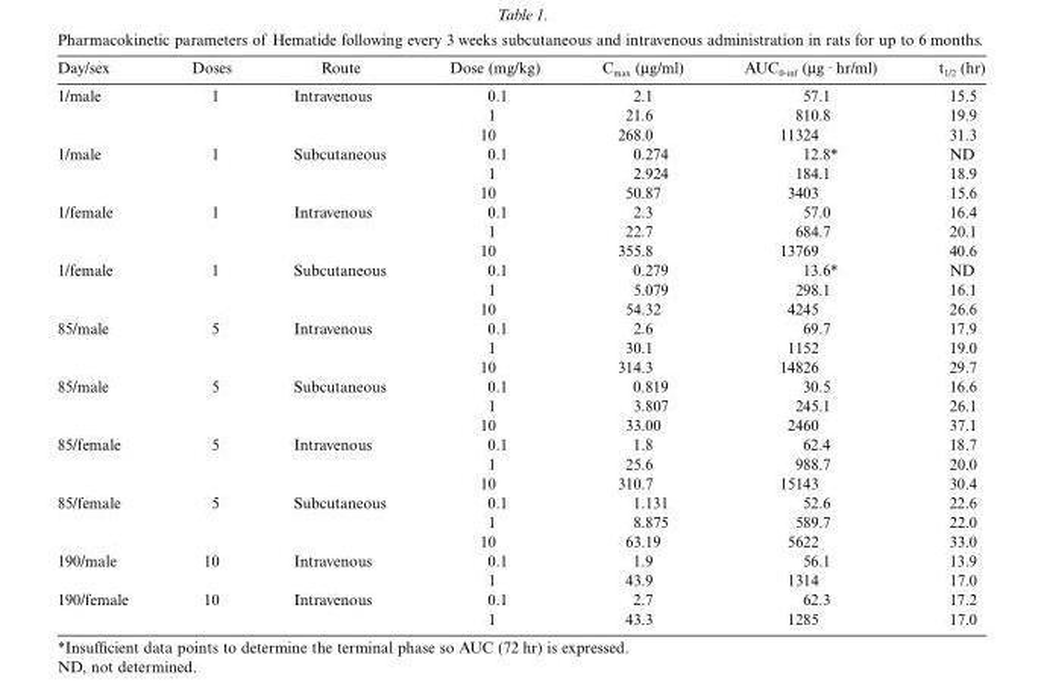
<table><thead><tr><td>Day/sex</td><td>Doses</td><td>Route</td><td>Dose (mg/kg)</td><td>C<sub>max</sub> (μg/ml)</td><td>AUC<sub>0-inf</sub> (μg · hr/ml)</td><td>t<sub>1/2</sub> (hr)</td></tr></thead><tbody><tr><td rowspan="3">1/male</td><td>1</td><td>Intravenous</td><td>0.1</td><td>2.1</td><td>57.1</td><td>15.5</td></tr><tr><td></td><td></td><td>1</td><td>21.6</td><td>810.8</td><td>19.9</td></tr><tr><td></td><td></td><td>10</td><td>268.0</td><td>11324</td><td>31.3</td></tr><tr><td rowspan="3">1/male</td><td>1</td><td>Subcutaneous</td><td>0.1</td><td>0.274</td><td>12.8*</td><td>ND</td></tr><tr><td></td><td></td><td>1</td><td>2.924</td><td>184.1</td><td>18.9</td></tr><tr><td></td><td></td><td>10</td><td>50.87</td><td>3403</td><td>15.6</td></tr><tr><td rowspan="3">1/female</td><td>1</td><td>Intravenous</td><td>0.1</td><td>2.3</td><td>57.0</td><td>16.4</td></tr><tr><td></td><td></td><td>1</td><td>22.7</td><td>684.7</td><td>20.1</td></tr><tr><td></td><td></td><td>10</td><td>355.8</td><td>13769</td><td>40.6</td></tr><tr><td rowspan="3">1/female</td><td>1</td><td>Subcutaneous</td><td>0.1</td><td>0.279</td><td>13.6*</td><td>ND</td></tr><tr><td></td><td></td><td>1</td><td>5.079</td><td>298.1</td><td>16.1</td></tr><tr><td></td><td></td><td>10</td><td>54.32</td><td>4245</td><td>26.6</td></tr><tr><td rowspan="3">85/male</td><td>5</td><td>Intravenous</td><td>0.1</td><td>2.6</td><td>69.7</td><td>17.9</td></tr><tr><td></td><td></td><td>1</td><td>30.1</td><td>1152</td><td>19.0</td></tr><tr><td></td><td></td><td>10</td><td>314.3</td><td>14826</td><td>29.7</td></tr><tr><td rowspan="3">85/male</td><td>5</td><td>Subcutaneous</td><td>0.1</td><td>0.819</td><td>30.5</td><td>16.6</td></tr><tr><td></td><td></td><td>1</td><td>3.807</td><td>245.1</td><td>26.1</td></tr><tr><td></td><td></td><td>10</td><td>33.00</td><td>2460</td><td>37.1</td></tr><tr><td rowspan="3">85/female</td><td>5</td><td>Intravenous</td><td>0.1</td><td>1.8</td><td>62.4</td><td>18.7</td></tr><tr><td></td><td></td><td>1</td><td>25.6</td><td>988.7</td><td>20.0</td></tr><tr><td></td><td></td><td>10</td><td>310.7</td><td>15143</td><td>30.4</td></tr><tr><td rowspan="3">85/female</td><td>5</td><td>Subcutaneous</td><td>0.1</td><td>1.131</td><td>52.6</td><td>22.6</td></tr><tr><td></td><td></td><td>1</td><td>8.875</td><td>589.7</td><td>22.0</td></tr><tr><td></td><td></td><td>10</td><td>63.19</td><td>5622</td><td>33.0</td></tr><tr><td rowspan="2">190/male</td><td>10</td><td>Intravenous</td><td>0.1</td><td>1.9</td><td>56.1</td><td>13.9</td></tr><tr><td></td><td></td><td>1</td><td>43.9</td><td>1314</td><td>17.0</td></tr><tr><td rowspan="2">190/female</td><td>10</td><td>Intravenous</td><td>0.1</td><td>2.7</td><td>62.3</td><td>17.2</td></tr><tr><td></td><td></td><td>1</td><td>43.3</td><td>1285</td><td>17.0</td></tr></tbody></table>